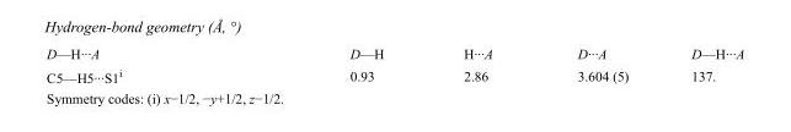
<table><tbody><tr><td>D—H···A</td><td>D—H</td><td>H···A</td><td>D···A</td><td>D—H···A</td></tr><tr><td>C5—H5···S1<sup>i</sup></td><td>0.93</td><td>2.86</td><td>3.604 (5)</td><td>137.</td></tr></tbody></table>